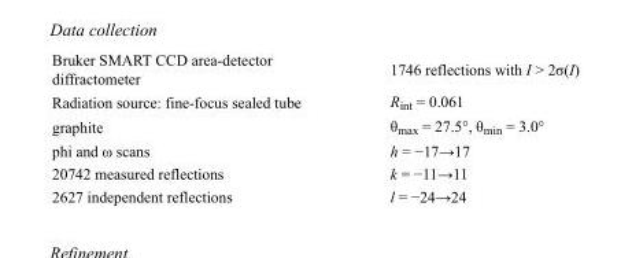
<table><tbody><tr><td>Bruker SMART CCD area-detector diffractometer</td><td>1746 reflections with I &gt; 2σ(I)</td></tr><tr><td>Radiation source: fine-focus sealed tube</td><td>R<sub>int</sub> = 0.061</td></tr><tr><td>graphite</td><td>θ<sub>max</sub> = 27.5°, θ<sub>min</sub> = 3.0°</td></tr><tr><td>phi and ω scans</td><td>h = −17→17</td></tr><tr><td>20742 measured reflections</td><td>k = −11→11</td></tr><tr><td>2627 independent reflections</td><td>l = −24→24</td></tr></tbody></table>